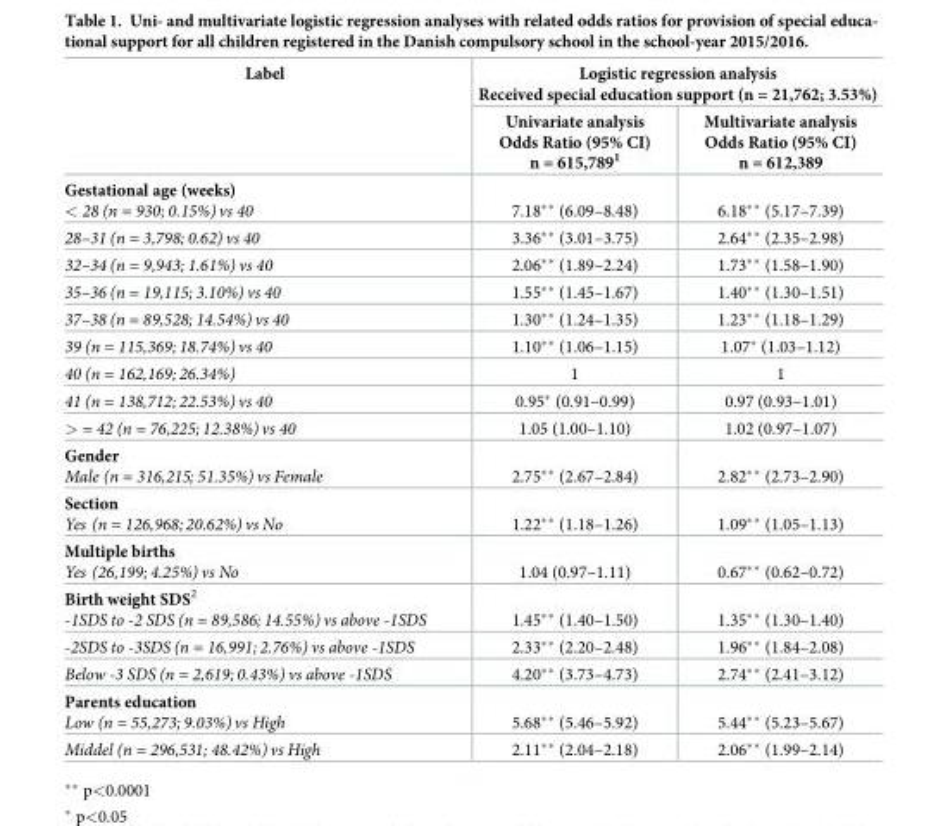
<table><thead><tr><td rowspan="2">Label</td><td colspan="2">Logistic regression analysis Received special education support (n = 21,762; 3.53%)</td></tr><tr><td>Univariate analysis Odds Ratio (95% CI) n = 615,789<sup>1</sup></td><td>Multivariate analysis Odds Ratio (95% CI) n = 612,389</td></tr></thead><tbody><tr><td>Gestational age (weeks) &lt; 28 (n = 930; 0.15%) vs 40</td><td>7.18** (6.09–8.48)</td><td>6.18** (5.17–7.39)</td></tr><tr><td>28–31 (n = 3,798; 0.62) vs 40</td><td>3.36** (3.01–3.75)</td><td>2.64** (2.35–2.98)</td></tr><tr><td>32–34 (n = 9,943; 1.61%) vs 40</td><td>2.06** (1.89–2.24)</td><td>1.73** (1.58–1.90)</td></tr><tr><td>35–36 (n = 19,115; 3.10%) vs 40</td><td>1.55** (1.45–1.67)</td><td>1.40** (1.30–1.51)</td></tr><tr><td>37–38 (n = 89,528; 14.54%) vs 40</td><td>1.30** (1.24–1.35)</td><td>1.23** (1.18–1.29)</td></tr><tr><td>39 (n = 115,369; 18.74%) vs 40</td><td>1.10** (1.06–1.15)</td><td>1.07* (1.03–1.12)</td></tr><tr><td>40 (n = 162,169; 26.34%)</td><td>1</td><td>1</td></tr><tr><td>41 (n = 138,712; 22.53%) vs 40</td><td>0.95* (0.91–0.99)</td><td>0.97 (0.93–1.01)</td></tr><tr><td>&gt; = 42 (n = 76,225; 12.38%) vs 40</td><td>1.05 (1.00–1.10)</td><td>1.02 (0.97–1.07)</td></tr><tr><td>Gender Male (n = 316,215; 51.35%) vs Female</td><td>2.75** (2.67–2.84)</td><td>2.82** (2.73–2.90)</td></tr><tr><td>Section Yes (n = 126,968; 20.62%) vs No</td><td>1.22** (1.18–1.26)</td><td>1.09** (1.05–1.13)</td></tr><tr><td>Multiple births Yes (26,199; 4.25%) vs No</td><td>1.04 (0.97–1.11)</td><td>0.67** (0.62–0.72)</td></tr><tr><td>Birth weight SDS<sup>2</sup> -1SDS to -2 SDS (n = 89,586; 14.55%) vs above -1SDS</td><td>1.45** (1.40–1.50)</td><td>1.35** (1.30–1.40)</td></tr><tr><td>-2SDS to -3SDS (n = 16,991; 2.76%) vs above -1SDS</td><td>2.33** (2.20–2.48)</td><td>1.96** (1.84–2.08)</td></tr><tr><td>Below -3 SDS (n = 2,619; 0.43%) vs above -1SDS</td><td>4.20** (3.73–4.73)</td><td>2.74** (2.41–3.12)</td></tr><tr><td>Parents education Low (n = 55,273; 9.03%) vs High</td><td>5.68** (5.46–5.92)</td><td>5.44** (5.23–5.67)</td></tr><tr><td>Middel (n = 296,531; 48.42%) vs High</td><td>2.11** (2.04–2.18)</td><td>2.06** (1.99–2.14)</td></tr></tbody></table>